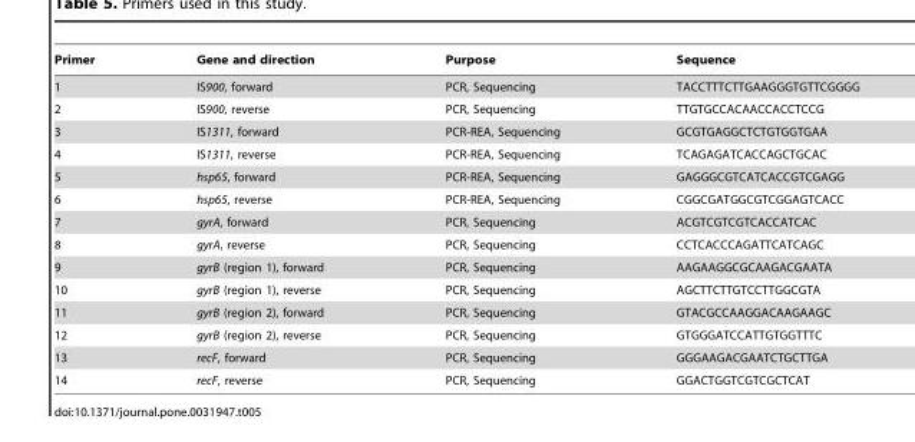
<table><thead><tr><td>Primer</td><td>Gene and direction</td><td>Purpose</td><td>Sequence</td></tr></thead><tbody><tr><td>1</td><td>IS900, forward</td><td>PCR, Sequencing</td><td>TACCTTTCTTGAAGGGTGTTCGGGG</td></tr><tr><td>2</td><td>IS900, reverse</td><td>PCR, Sequencing</td><td>TTGTGCCACAACCACCTCCG</td></tr><tr><td>3</td><td>IS1311, forward</td><td>PCR-REA, Sequencing</td><td>GCGTGAGGCTCTGTGGTGAA</td></tr><tr><td>4</td><td>IS1311, reverse</td><td>PCR-REA, Sequencing</td><td>TCAGAGATCACCAGCTGCAC</td></tr><tr><td>5</td><td>hsp65, forward</td><td>PCR-REA, Sequencing</td><td>GAGGGCGTCATCACCGTCGAGG</td></tr><tr><td>6</td><td>hsp65, reverse</td><td>PCR-REA, Sequencing</td><td>CGGCGATGGCGTCGGAGTCACC</td></tr><tr><td>7</td><td>gyrA, forward</td><td>PCR, Sequencing</td><td>ACGTCGTCGTCACCATCAC</td></tr><tr><td>8</td><td>gyrA, reverse</td><td>PCR, Sequencing</td><td>CCTCACCCAGATTCATCAGC</td></tr><tr><td>9</td><td>gyrB (region 1), forward</td><td>PCR, Sequencing</td><td>AAGAAGGCGCAAGACGAATA</td></tr><tr><td>10</td><td>gyrB (region 1), reverse</td><td>PCR, Sequencing</td><td>AGCTTCTTGTCCTTGGCGTA</td></tr><tr><td>11</td><td>gyrB (region 2), forward</td><td>PCR, Sequencing</td><td>GTACGCCAAGGACAAGAAGC</td></tr><tr><td>12</td><td>gyrB (region 2), reverse</td><td>PCR, Sequencing</td><td>GTGGGATCCATTGTGGTTTC</td></tr><tr><td>13</td><td>recF, forward</td><td>PCR, Sequencing</td><td>GGGAAGACGAATCTGCTTGA</td></tr><tr><td>14</td><td>recF, reverse</td><td>PCR, Sequencing</td><td>GGACTGGTCGTCGCTCAT</td></tr></tbody></table>